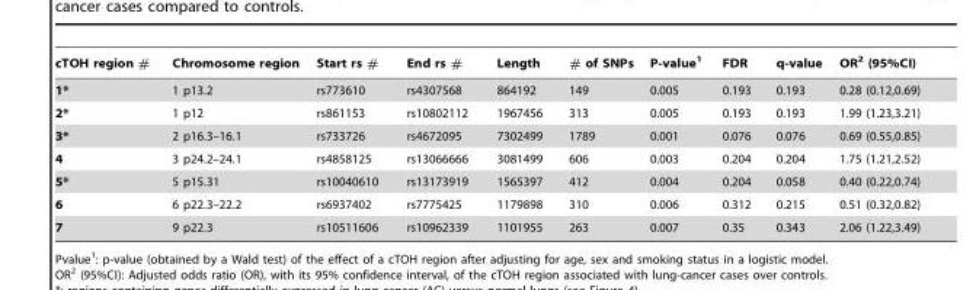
<table><thead><tr><td>cTOH region #</td><td>Chromosome region</td><td>Start rs #</td><td>End rs #</td><td>Length</td><td># of SNPs</td><td>P-value<sup>1</sup></td><td>FDR</td><td>q-value</td><td>OR<sup>2</sup> (95%CI)</td></tr></thead><tbody><tr><td>1*</td><td>1 p13.2</td><td>rs773610</td><td>rs4307568</td><td>864192</td><td>149</td><td>0.005</td><td>0.193</td><td>0.193</td><td>0.28 (0.12,0.69)</td></tr><tr><td>2*</td><td>1 p12</td><td>rs861153</td><td>rs10802112</td><td>1967456</td><td>313</td><td>0.005</td><td>0.193</td><td>0.193</td><td>1.99 (1.23,3.21)</td></tr><tr><td>3*</td><td>2 p16.3–16.1</td><td>rs733726</td><td>rs4672095</td><td>7302499</td><td>1789</td><td>0.001</td><td>0.076</td><td>0.076</td><td>0.69 (0.55,0.85)</td></tr><tr><td>4</td><td>3 p24.2–24.1</td><td>rs4858125</td><td>rs13066666</td><td>3081499</td><td>606</td><td>0.003</td><td>0.204</td><td>0.204</td><td>1.75 (1.21,2.52)</td></tr><tr><td>5*</td><td>5 p15.31</td><td>rs10040610</td><td>rs13173919</td><td>1565397</td><td>412</td><td>0.004</td><td>0.204</td><td>0.058</td><td>0.40 (0.22,0.74)</td></tr><tr><td>6</td><td>6 p22.3–22.2</td><td>rs6937402</td><td>rs7775425</td><td>1179898</td><td>310</td><td>0.006</td><td>0.312</td><td>0.215</td><td>0.51 (0.32,0.82)</td></tr><tr><td>7</td><td>9 p22.3</td><td>rs10511606</td><td>rs10962339</td><td>1101955</td><td>263</td><td>0.007</td><td>0.35</td><td>0.343</td><td>2.06 (1.22,3.49)</td></tr></tbody></table>